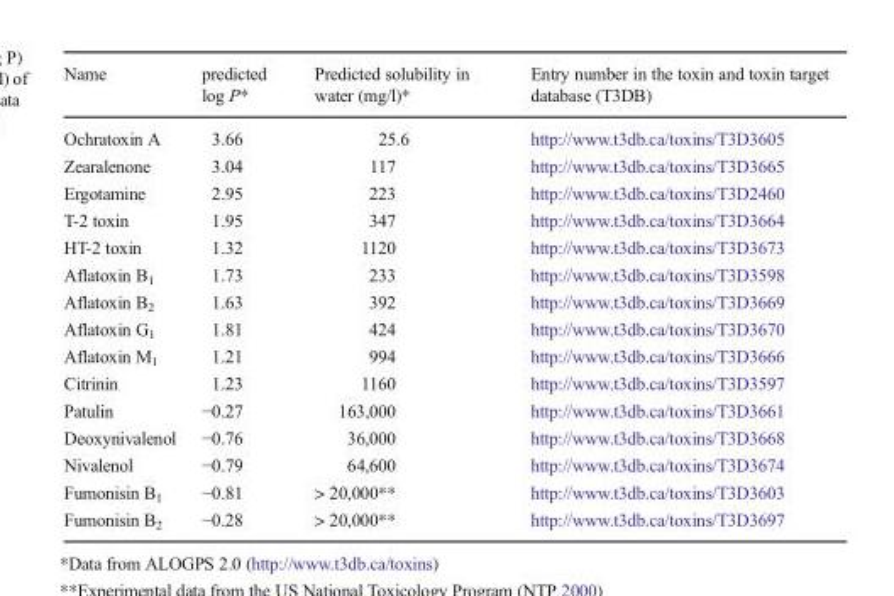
<table><thead><tr><td>Name</td><td>predicted log P*</td><td>Predicted solubility in water (mg/l)*</td><td>Entry number in the toxin and toxin target database (T3DB)</td></tr></thead><tbody><tr><td>Ochratoxin A</td><td>3.66</td><td>25.6</td><td>http://www.t3db.ca/toxins/T3D3605</td></tr><tr><td>Zearalenone</td><td>3.04</td><td>117</td><td>http://www.t3db.ca/toxins/T3D3665</td></tr><tr><td>Ergotamine</td><td>2.95</td><td>223</td><td>http://www.t3db.ca/toxins/T3D2460</td></tr><tr><td>T-2 toxin</td><td>1.95</td><td>347</td><td>http://www.t3db.ca/toxins/T3D3664</td></tr><tr><td>HT-2 toxin</td><td>1.32</td><td>1120</td><td>http://www.t3db.ca/toxins/T3D3673</td></tr><tr><td>Aflatoxin B<sub>1</sub></td><td>1.73</td><td>233</td><td>http://www.t3db.ca/toxins/T3D3598</td></tr><tr><td>Aflatoxin B<sub>2</sub></td><td>1.63</td><td>392</td><td>http://www.t3db.ca/toxins/T3D3669</td></tr><tr><td>Aflatoxin G<sub>1</sub></td><td>1.81</td><td>424</td><td>http://www.t3db.ca/toxins/T3D3670</td></tr><tr><td>Aflatoxin M<sub>1</sub></td><td>1.21</td><td>994</td><td>http://www.t3db.ca/toxins/T3D3666</td></tr><tr><td>Citrinin</td><td>1.23</td><td>1160</td><td>http://www.t3db.ca/toxins/T3D3597</td></tr><tr><td>Patulin</td><td>−0.27</td><td>163,000</td><td>http://www.t3db.ca/toxins/T3D3661</td></tr><tr><td>Deoxynivalenol</td><td>−0.76</td><td>36,000</td><td>http://www.t3db.ca/toxins/T3D3668</td></tr><tr><td>Nivalenol</td><td>−0.79</td><td>64,600</td><td>http://www.t3db.ca/toxins/T3D3674</td></tr><tr><td>Fumonisin B<sub>1</sub></td><td>−0.81</td><td>&gt; 20,000**</td><td>http://www.t3db.ca/toxins/T3D3603</td></tr><tr><td>Fumonisin B<sub>2</sub></td><td>−0.28</td><td>&gt; 20,000**</td><td>http://www.t3db.ca/toxins/T3D3697</td></tr></tbody></table>